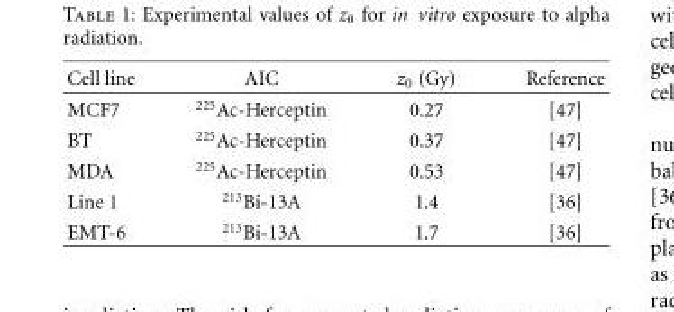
<table><thead><tr><td>Cell line</td><td>AIC</td><td>z<sub>0</sub> (Gy)</td><td>Reference</td></tr></thead><tbody><tr><td>MCF7</td><td><sup>225</sup>Ac-Herceptin</td><td>0.27</td><td>[47]</td></tr><tr><td>BT</td><td><sup>225</sup>Ac-Herceptin</td><td>0.37</td><td>[47]</td></tr><tr><td>MDA</td><td><sup>225</sup>Ac-Herceptin</td><td>0.53</td><td>[47]</td></tr><tr><td>Line 1</td><td><sup>213</sup>Bi-13A</td><td>1.4</td><td>[36]</td></tr><tr><td>EMT-6</td><td><sup>213</sup>Bi-13A</td><td>1.7</td><td>[36]</td></tr></tbody></table>